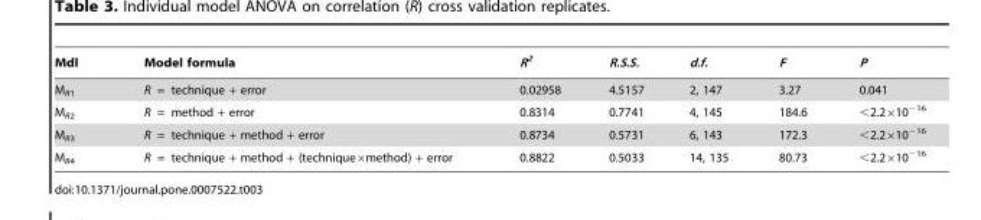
<table><thead><tr><td>Mdl</td><td>Model formula</td><td>R<sup>2</sup></td><td>R.S.S.</td><td>d.f.</td><td>F</td><td>P</td></tr></thead><tbody><tr><td>M<sub>R1</sub></td><td>R = technique + error</td><td>0.02958</td><td>4.5157</td><td>2, 147</td><td>3.27</td><td>0.041</td></tr><tr><td>M<sub>R2</sub></td><td>R = method + error</td><td>0.8314</td><td>0.7741</td><td>4, 145</td><td>184.6</td><td>&lt;2.2×10<sup>−16</sup></td></tr><tr><td>M<sub>R3</sub></td><td>R = technique + method + error</td><td>0.8734</td><td>0.5731</td><td>6, 143</td><td>172.3</td><td>&lt;2.2×10<sup>−16</sup></td></tr><tr><td>M<sub>R4</sub></td><td>R = technique + method + (technique×method) + error</td><td>0.8822</td><td>0.5033</td><td>14, 135</td><td>80.73</td><td>&lt;2.2×10<sup>−16</sup></td></tr></tbody></table>